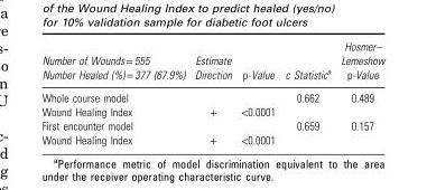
<table><thead><tr><td>Number of Wounds = 555 Number Healed (%) = 377 (67.9%)</td><td>Estimate Direction</td><td>p-Value</td><td>c Statistic<sup>a</sup></td><td>Hosmer– Lemeshow p-Value</td></tr></thead><tbody><tr><td>Whole course model</td><td></td><td></td><td>0.662</td><td>0.489</td></tr><tr><td>Wound Healing Index</td><td>+</td><td>&lt;0.0001</td><td></td><td></td></tr><tr><td>First encounter model</td><td></td><td></td><td>0.659</td><td>0.157</td></tr><tr><td>Wound Healing Index</td><td>+</td><td>&lt;0.0001</td><td></td><td></td></tr></tbody></table>